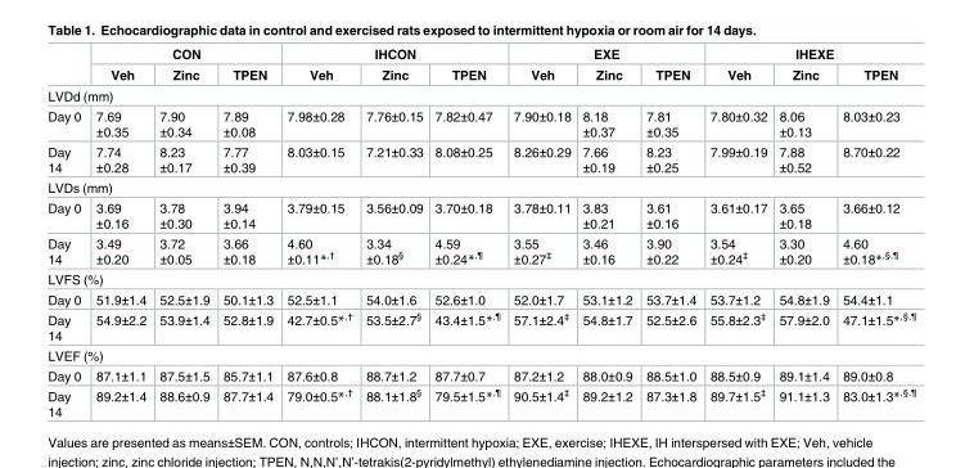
<table><thead><tr><td rowspan="2"></td><td colspan="3">CON</td><td colspan="3">IHCON</td><td colspan="3">EXE</td><td colspan="3">IHEXE</td></tr><tr><td>Veh</td><td>Zinc</td><td>TPEN</td><td>Veh</td><td>Zinc</td><td>TPEN</td><td>Veh</td><td>Zinc</td><td>TPEN</td><td>Veh</td><td>Zinc</td><td>TPEN</td></tr></thead><tbody><tr><td colspan="13">LVDd (mm)</td></tr><tr><td>Day 0</td><td>7.69 ±0.35</td><td>7.90 ±0.34</td><td>7.89 ±0.08</td><td>7.98±0.28</td><td>7.76±0.15</td><td>7.82±0.47</td><td>7.90±0.18</td><td>8.18 ±0.37</td><td>7.81 ±0.35</td><td>7.80±0.32</td><td>8.06 ±0.13</td><td>8.03±0.23</td></tr><tr><td>Day 14</td><td>7.74 ±0.28</td><td>8.23 ±0.17</td><td>7.77 ±0.39</td><td>8.03±0.15</td><td>7.21±0.33</td><td>8.08±0.25</td><td>8.26±0.29</td><td>7.66 ±0.19</td><td>8.23 ±0.25</td><td>7.99±0.19</td><td>7.88 ±0.52</td><td>8.70±0.22</td></tr><tr><td colspan="13">LVDs (mm)</td></tr><tr><td>Day 0</td><td>3.69 ±0.16</td><td>3.78 ±0.30</td><td>3.94 ±0.14</td><td>3.79±0.15</td><td>3.56±0.09</td><td>3.70±0.18</td><td>3.78±0.11</td><td>3.83 ±0.21</td><td>3.61 ±0.16</td><td>3.61±0.17</td><td>3.65 ±0.18</td><td>3.66±0.12</td></tr><tr><td>Day 14</td><td>3.49 ±0.20</td><td>3.72 ±0.05</td><td>3.66 ±0.18</td><td>4.60 ±0.11*<sup>,†</sup></td><td>3.34 ±0.18<sup>§</sup></td><td>4.59 ±0.24*<sup>,¶</sup></td><td>3.55 ±0.27<sup>‡</sup></td><td>3.46 ±0.16</td><td>3.90 ±0.22</td><td>3.54 ±0.24<sup>‡</sup></td><td>3.30 ±0.20</td><td>4.60 ±0.18*<sup>,§,¶</sup></td></tr><tr><td colspan="13">LVFS (%)</td></tr><tr><td>Day 0</td><td>51.9±1.4</td><td>52.5±1.9</td><td>50.1±1.3</td><td>52.5±1.1</td><td>54.0±1.6</td><td>52.6±1.0</td><td>52.0±1.7</td><td>53.1±1.2</td><td>53.7±1.4</td><td>53.7±1.2</td><td>54.8±1.9</td><td>54.4±1.1</td></tr><tr><td>Day 14</td><td>54.9±2.2</td><td>53.9±1.4</td><td>52.8±1.9</td><td>42.7±0.5*<sup>,†</sup></td><td>53.5±2.7<sup>§</sup></td><td>43.4±1.5*<sup>,¶</sup></td><td>57.1±2.4<sup>‡</sup></td><td>54.8±1.7</td><td>52.5±2.6</td><td>55.8±2.3<sup>‡</sup></td><td>57.9±2.0</td><td>47.1±1.5*<sup>,§,¶</sup></td></tr><tr><td colspan="13">LVEF (%)</td></tr><tr><td>Day 0</td><td>87.1±1.1</td><td>87.5±1.5</td><td>85.7±1.1</td><td>87.6±0.8</td><td>88.7±1.2</td><td>87.7±0.7</td><td>87.2±1.2</td><td>88.0±0.9</td><td>88.5±1.0</td><td>88.5±0.9</td><td>89.1±1.4</td><td>89.0±0.8</td></tr><tr><td>Day 14</td><td>89.2±1.4</td><td>88.6±0.9</td><td>87.7±1.4</td><td>79.0±0.5*<sup>,†</sup></td><td>88.1±1.8<sup>§</sup></td><td>79.5±1.5*<sup>,¶</sup></td><td>90.5±1.4<sup>‡</sup></td><td>89.2±1.2</td><td>87.3±1.8</td><td>89.7±1.5<sup>‡</sup></td><td>91.1±1.3</td><td>83.0±1.3*<sup>,§,¶</sup></td></tr></tbody></table>